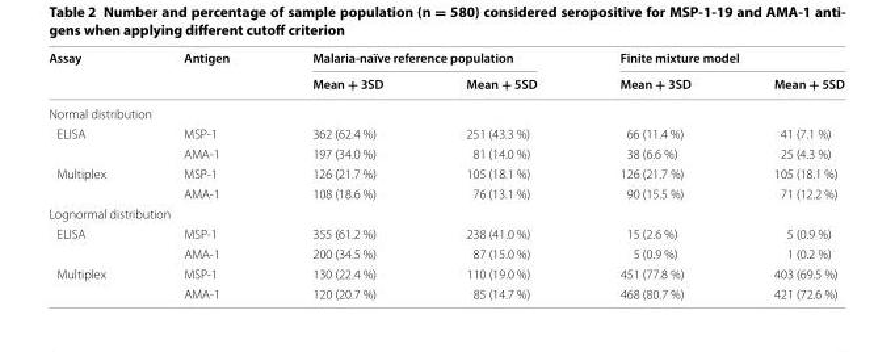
<table><thead><tr><td rowspan="2">Assay</td><td rowspan="2">Antigen</td><td colspan="2">Malaria-naïve reference population</td><td colspan="2">Finite mixture model</td></tr><tr><td>Mean + 3SD</td><td>Mean + 5SD</td><td>Mean + 3SD</td><td>Mean + 5SD</td></tr></thead><tbody><tr><td colspan="6">Normal distribution</td></tr><tr><td rowspan="2">ELISA</td><td>MSP-1</td><td>362 (62.4 %)</td><td>251 (43.3 %)</td><td>66 (11.4 %)</td><td>41 (7.1 %)</td></tr><tr><td>AMA-1</td><td>197 (34.0 %)</td><td>81 (14.0 %)</td><td>38 (6.6 %)</td><td>25 (4.3 %)</td></tr><tr><td rowspan="2">Multiplex</td><td>MSP-1</td><td>126 (21.7 %)</td><td>105 (18.1 %)</td><td>126 (21.7 %)</td><td>105 (18.1 %)</td></tr><tr><td>AMA-1</td><td>108 (18.6 %)</td><td>76 (13.1 %)</td><td>90 (15.5 %)</td><td>71 (12.2 %)</td></tr><tr><td colspan="6">Lognormal distribution</td></tr><tr><td rowspan="2">ELISA</td><td>MSP-1</td><td>355 (61.2 %)</td><td>238 (41.0 %)</td><td>15 (2.6 %)</td><td>5 (0.9 %)</td></tr><tr><td>AMA-1</td><td>200 (34.5 %)</td><td>87 (15.0 %)</td><td>5 (0.9 %)</td><td>1 (0.2 %)</td></tr><tr><td rowspan="2">Multiplex</td><td>MSP-1</td><td>130 (22.4 %)</td><td>110 (19.0 %)</td><td>451 (77.8 %)</td><td>403 (69.5 %)</td></tr><tr><td>AMA-1</td><td>120 (20.7 %)</td><td>85 (14.7 %)</td><td>468 (80.7 %)</td><td>421 (72.6 %)</td></tr></tbody></table>